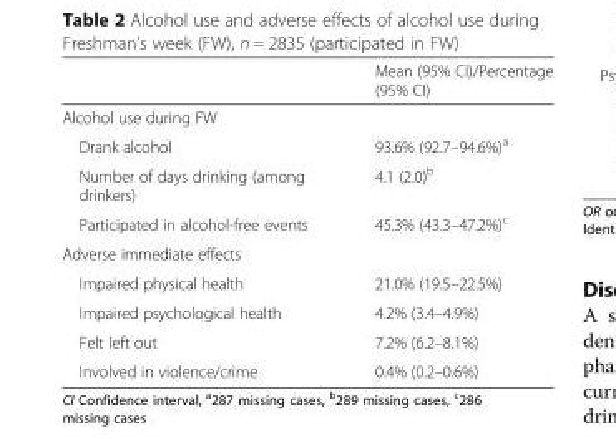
<table><thead><tr><td></td><td>Mean (95% CI)/Percentage (95% CI)</td></tr></thead><tbody><tr><td colspan="2">Alcohol use during FW</td></tr><tr><td>Drank alcohol</td><td>93.6% (92.7–94.6%)<sup>a</sup></td></tr><tr><td>Number of days drinking (among drinkers)</td><td>4.1 (2.0)<sup>b</sup></td></tr><tr><td>Participated in alcohol-free events</td><td>45.3% (43.3–47.2%)<sup>c</sup></td></tr><tr><td colspan="2">Adverse immediate effects</td></tr><tr><td>Impaired physical health</td><td>21.0% (19.5–22.5%)</td></tr><tr><td>Impaired psychological health</td><td>4.2% (3.4–4.9%)</td></tr><tr><td>Felt left out</td><td>7.2% (6.2–8.1%)</td></tr><tr><td>Involved in violence/crime</td><td>0.4% (0.2–0.6%)</td></tr></tbody></table>